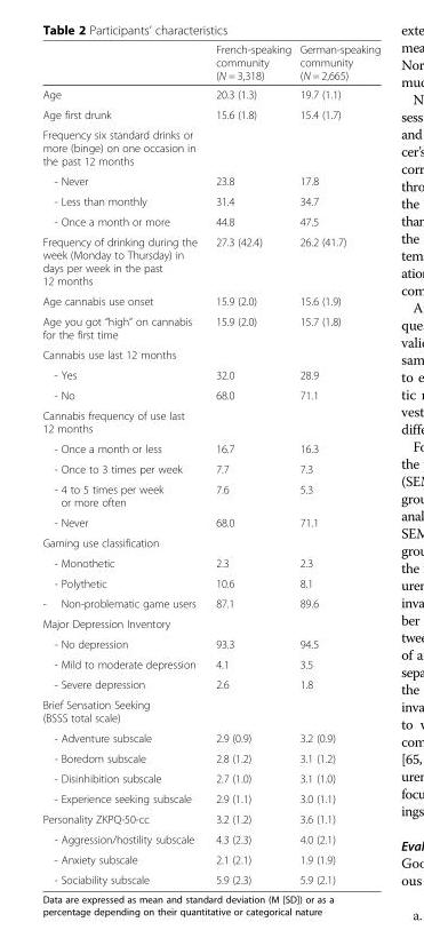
<table><thead><tr><td></td><td>French-speaking community (N = 3,318)</td><td>German-speaking community (N = 2,665)</td></tr></thead><tbody><tr><td>Age</td><td>20.3 (1.3)</td><td>19.7 (1.1)</td></tr><tr><td>Age first drunk</td><td>15.6 (1.8)</td><td>15.4 (1.7)</td></tr><tr><td colspan="3">Frequency six standard drinks or more (binge) on one occasion in the past 12 months</td></tr><tr><td>- Never</td><td>23.8</td><td>17.8</td></tr><tr><td>- Less than monthly</td><td>31.4</td><td>34.7</td></tr><tr><td>- Once a month or more</td><td>44.8</td><td>47.5</td></tr><tr><td>Frequency of drinking during the week (Monday to Thursday) in days per week in the past 12 months</td><td>27.3 (42.4)</td><td>26.2 (41.7)</td></tr><tr><td>Age cannabis use onset</td><td>15.9 (2.0)</td><td>15.6 (1.9)</td></tr><tr><td>Age you got “high” on cannabis for the first time</td><td>15.9 (2.0)</td><td>15.7 (1.8)</td></tr><tr><td colspan="3">Cannabis use last 12 months</td></tr><tr><td>- Yes</td><td>32.0</td><td>28.9</td></tr><tr><td>- No</td><td>68.0</td><td>71.1</td></tr><tr><td colspan="3">Cannabis frequency of use last 12 months</td></tr><tr><td>- Once a month or less</td><td>16.7</td><td>16.3</td></tr><tr><td>- Once to 3 times per week</td><td>7.7</td><td>7.3</td></tr><tr><td>- 4 to 5 times per week or more often</td><td>7.6</td><td>5.3</td></tr><tr><td>- Never</td><td>68.0</td><td>71.1</td></tr><tr><td colspan="3">Gaming use classification</td></tr><tr><td>- Monothetic</td><td>2.3</td><td>2.3</td></tr><tr><td>- Polythetic</td><td>10.6</td><td>8.1</td></tr><tr><td>- Non-problematic game users</td><td>87.1</td><td>89.6</td></tr><tr><td colspan="3">Major Depression Inventory</td></tr><tr><td>- No depression</td><td>93.3</td><td>94.5</td></tr><tr><td>- Mild to moderate depression</td><td>4.1</td><td>3.5</td></tr><tr><td>- Severe depression</td><td>2.6</td><td>1.8</td></tr><tr><td colspan="3">Brief Sensation Seeking (BSSS total scale)</td></tr><tr><td>- Adventure subscale</td><td>2.9 (0.9)</td><td>3.2 (0.9)</td></tr><tr><td>- Boredom subscale</td><td>2.8 (1.2)</td><td>3.1 (1.2)</td></tr><tr><td>- Disinhibition subscale</td><td>2.7 (1.0)</td><td>3.1 (1.0)</td></tr><tr><td>- Experience seeking subscale</td><td>2.9 (1.1)</td><td>3.0 (1.1)</td></tr><tr><td>Personality ZKPQ-50-cc</td><td>3.2 (1.2)</td><td>3.6 (1.1)</td></tr><tr><td>- Aggression/hostility subscale</td><td>4.3 (2.3)</td><td>4.0 (2.1)</td></tr><tr><td>- Anxiety subscale</td><td>2.1 (2.1)</td><td>1.9 (1.9)</td></tr><tr><td>- Sociability subscale</td><td>5.9 (2.3)</td><td>5.9 (2.1)</td></tr></tbody></table>